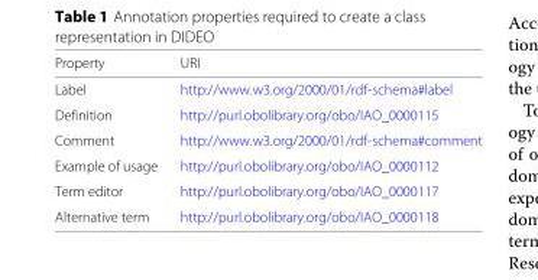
<table><thead><tr><td>Property</td><td>URI</td></tr></thead><tbody><tr><td>Label</td><td>http://www.w3.org/2000/01/rdf-schema#label</td></tr><tr><td>Definition</td><td>http://purl.obolibrary.org/obo/IAO_0000115</td></tr><tr><td>Comment</td><td>http://www.w3.org/2000/01/rdf-schema#comment</td></tr><tr><td>Example of usage</td><td>http://purl.obolibrary.org/obo/IAO_0000112</td></tr><tr><td>Term editor</td><td>http://purl.obolibrary.org/obo/IAO_0000117</td></tr><tr><td>Alternative term</td><td>http://purl.obolibrary.org/obo/IAO_0000118</td></tr></tbody></table>